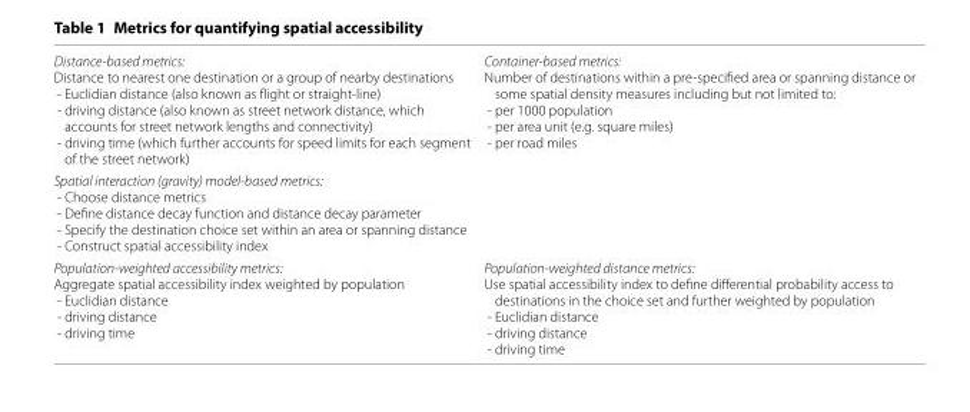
<table><tbody><tr><td>Distance-based metrics: Distance to nearest one destination or a group of nearby destinations - Euclidian distance (also known as flight or straight-line) - driving distance (also known as street network distance, which accounts for street network lengths and connectivity) - driving time (which further accounts for speed limits for each segment of the street network)</td><td>Container-based metrics: Number of destinations within a pre-specified area or spanning distance or some spatial density measures including but not limited to: - per 1000 population - per area unit (e.g. square miles) - per road miles</td></tr><tr><td colspan="2">Spatial interaction (gravity) model-based metrics: - Choose distance metrics - Define distance decay function and distance decay parameter - Specify the destination choice set within an area or spanning distance - Construct spatial accessibility index</td></tr><tr><td>Population-weighted accessibility metrics: Aggregate spatial accessibility index weighted by population - Euclidian distance - driving distance - driving time</td><td>Population-weighted distance metrics: Use spatial accessibility index to define differential probability access to destinations in the choice set and further weighted by population - Euclidian distance - driving distance - driving time</td></tr></tbody></table>